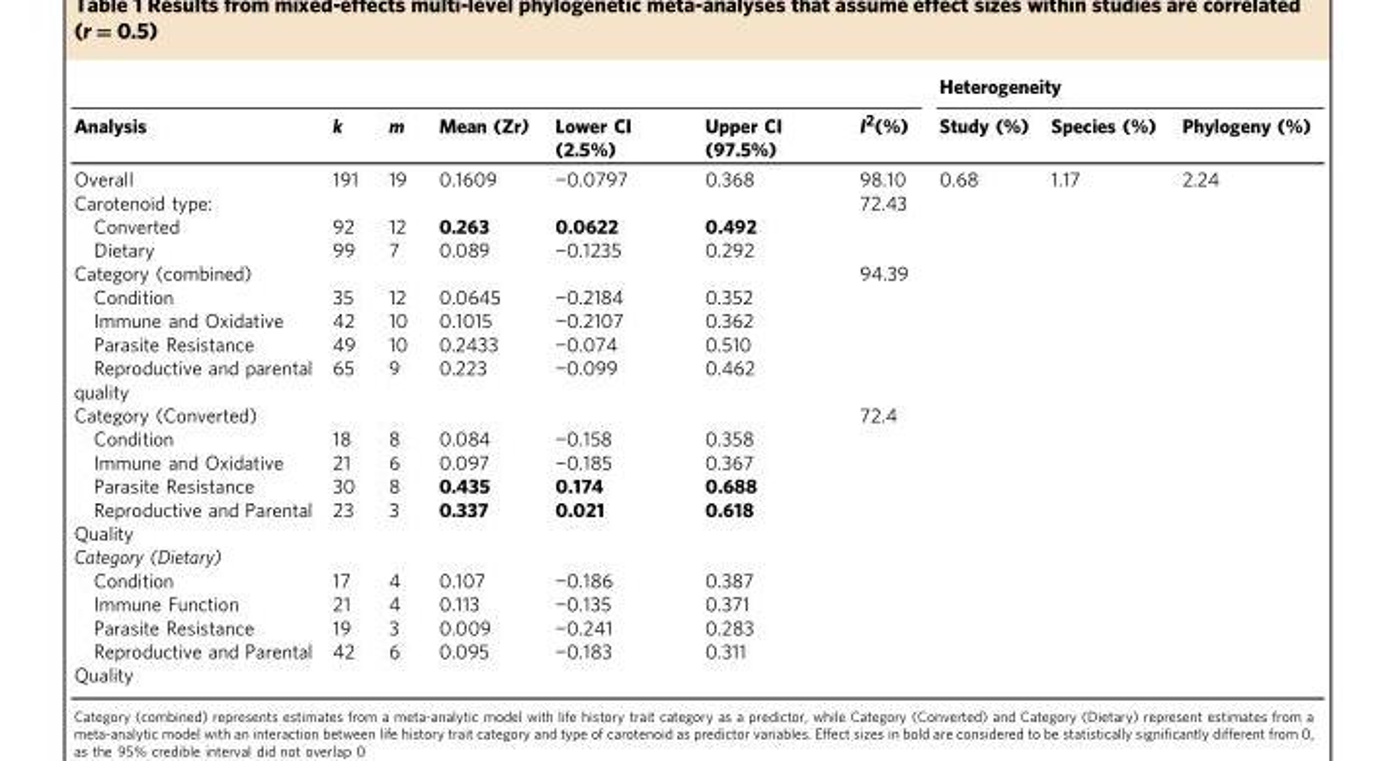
<table><thead><tr><td rowspan="2">Analysis</td><td rowspan="2">k</td><td rowspan="2">m</td><td rowspan="2">Mean (Zr)</td><td rowspan="2">Lower CI (2.5%)</td><td rowspan="2">Upper CI (97.5%)</td><td rowspan="2">I<sup>2</sup>(%)</td><td colspan="3">Heterogeneity</td></tr><tr><td>Study (%)</td><td>Species (%)</td><td>Phylogeny (%)</td></tr></thead><tbody><tr><td>Overall</td><td>191</td><td>19</td><td>0.1609</td><td>−0.0797</td><td>0.368</td><td>98.10</td><td>0.68</td><td>1.17</td><td>2.24</td></tr><tr><td>Carotenoid type:</td><td></td><td></td><td></td><td></td><td></td><td>72.43</td><td></td><td></td><td></td></tr><tr><td>Converted</td><td>92</td><td>12</td><td>0.263</td><td>0.0622</td><td>0.492</td><td></td><td></td><td></td><td></td></tr><tr><td>Dietary</td><td>99</td><td>7</td><td>0.089</td><td>−0.1235</td><td>0.292</td><td></td><td></td><td></td><td></td></tr><tr><td>Category (combined)</td><td></td><td></td><td></td><td></td><td></td><td>94.39</td><td></td><td></td><td></td></tr><tr><td>Condition</td><td>35</td><td>12</td><td>0.0645</td><td>−0.2184</td><td>0.352</td><td></td><td></td><td></td><td></td></tr><tr><td>Immune and Oxidative</td><td>42</td><td>10</td><td>0.1015</td><td>−0.2107</td><td>0.362</td><td></td><td></td><td></td><td></td></tr><tr><td>Parasite Resistance</td><td>49</td><td>10</td><td>0.2433</td><td>−0.074</td><td>0.510</td><td></td><td></td><td></td><td></td></tr><tr><td>Reproductive and parental quality</td><td>65</td><td>9</td><td>0.223</td><td>−0.099</td><td>0.462</td><td></td><td></td><td></td><td></td></tr><tr><td>Category (Converted)</td><td></td><td></td><td></td><td></td><td></td><td>72.4</td><td></td><td></td><td></td></tr><tr><td>Condition</td><td>18</td><td>8</td><td>0.084</td><td>−0.158</td><td>0.358</td><td></td><td></td><td></td><td></td></tr><tr><td>Immune and Oxidative</td><td>21</td><td>6</td><td>0.097</td><td>−0.185</td><td>0.367</td><td></td><td></td><td></td><td></td></tr><tr><td>Parasite Resistance</td><td>30</td><td>8</td><td>0.435</td><td>0.174</td><td>0.688</td><td></td><td></td><td></td><td></td></tr><tr><td>Reproductive and Parental Quality</td><td>23</td><td>3</td><td>0.337</td><td>0.021</td><td>0.618</td><td></td><td></td><td></td><td></td></tr><tr><td colspan="10">Category (Dietary)</td></tr><tr><td>Condition</td><td>17</td><td>4</td><td>0.107</td><td>−0.186</td><td>0.387</td><td></td><td></td><td></td><td></td></tr><tr><td>Immune Function</td><td>21</td><td>4</td><td>0.113</td><td>−0.135</td><td>0.371</td><td></td><td></td><td></td><td></td></tr><tr><td>Parasite Resistance</td><td>19</td><td>3</td><td>0.009</td><td>−0.241</td><td>0.283</td><td></td><td></td><td></td><td></td></tr><tr><td>Reproductive and Parental Quality</td><td>42</td><td>6</td><td>0.095</td><td>−0.183</td><td>0.311</td><td></td><td></td><td></td><td></td></tr></tbody></table>